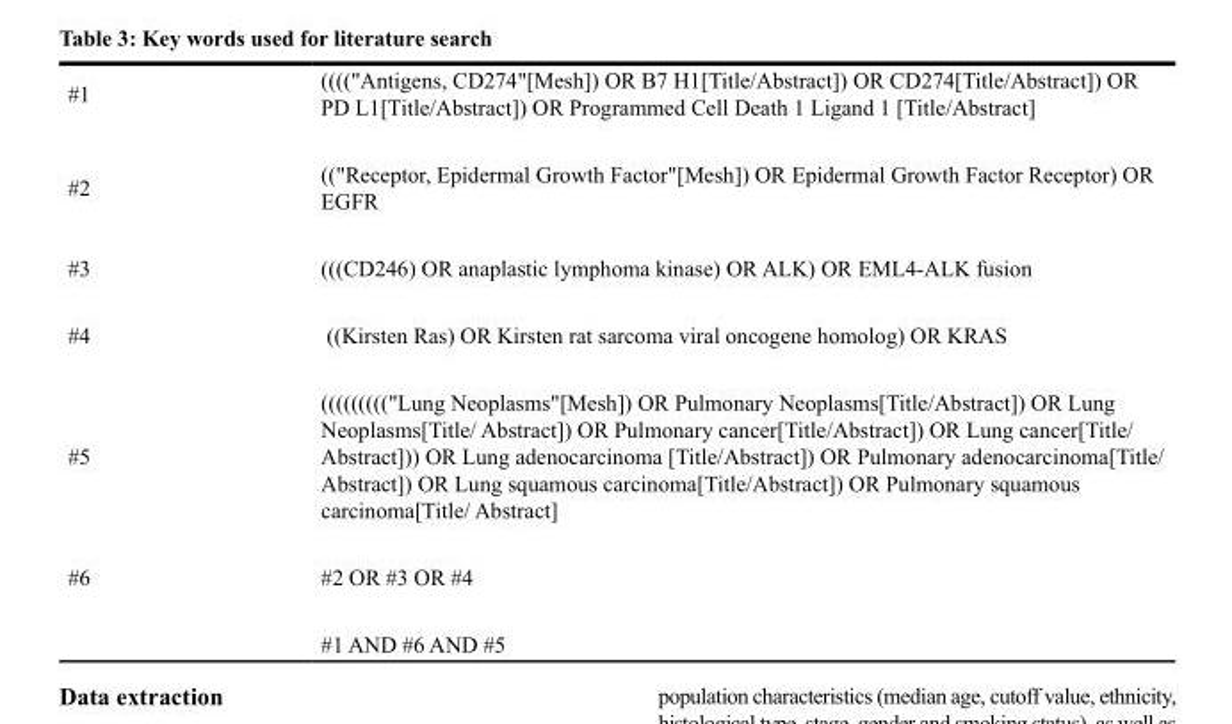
<table><tbody><tr><td>#1</td><td>((((&quot;Antigens, CD274&quot;[Mesh]) OR B7 H1[Title/Abstract]) OR CD274[Title/Abstract]) OR PD L1[Title/Abstract]) OR Programmed Cell Death 1 Ligand 1 [Title/Abstract]</td></tr><tr><td>#2</td><td>((&quot;Receptor, Epidermal Growth Factor&quot;[Mesh]) OR Epidermal Growth Factor Receptor) OR EGFR</td></tr><tr><td>#3</td><td>(((CD246) OR anaplastic lymphoma kinase) OR ALK) OR EML4-ALK fusion</td></tr><tr><td>#4</td><td>((Kirsten Ras) OR Kirsten rat sarcoma viral oncogene homolog) OR KRAS</td></tr><tr><td>#5</td><td>(((((((((&quot;Lung Neoplasms&quot;[Mesh]) OR Pulmonary Neoplasms[Title/Abstract]) OR Lung Neoplasms[Title/ Abstract]) OR Pulmonary cancer[Title/Abstract]) OR Lung cancer[Title/ Abstract])) OR Lung adenocarcinoma [Title/Abstract]) OR Pulmonary adenocarcinoma[Title/ Abstract]) OR Lung squamous carcinoma[Title/Abstract]) OR Pulmonary squamous carcinoma[Title/ Abstract]</td></tr><tr><td rowspan="2">#6</td><td>#2 OR #3 OR #4</td></tr><tr><td>#1 AND #6 AND #5</td></tr></tbody></table>